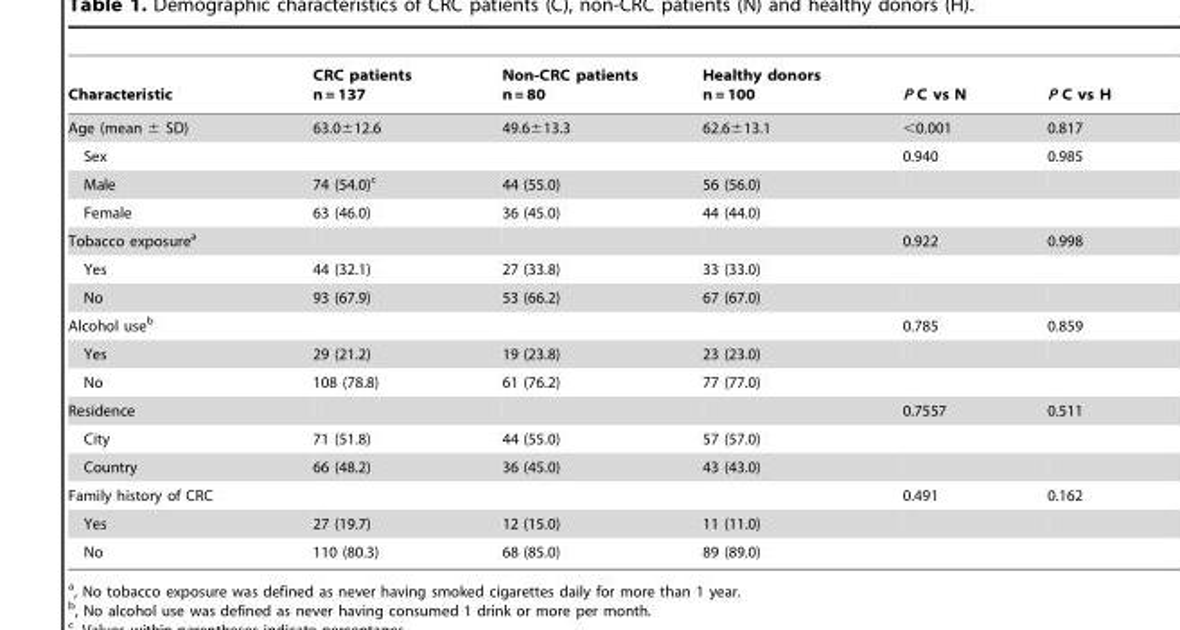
<table><thead><tr><td>Characteristic</td><td>CRC patients n = 137</td><td>Non-CRC patients n = 80</td><td>Healthy donors n = 100</td><td>P C vs N</td><td>P C vs H</td></tr></thead><tbody><tr><td>Age (mean ± SD)</td><td>63.0±12.6</td><td>49.6±13.3</td><td>62.6±13.1</td><td>&lt;0.001</td><td>0.817</td></tr><tr><td>Sex</td><td></td><td></td><td></td><td>0.940</td><td>0.985</td></tr><tr><td>Male</td><td>74 (54.0)<sup>c</sup></td><td>44 (55.0)</td><td>56 (56.0)</td><td></td><td></td></tr><tr><td>Female</td><td>63 (46.0)</td><td>36 (45.0)</td><td>44 (44.0)</td><td></td><td></td></tr><tr><td>Tobacco exposure<sup>a</sup></td><td></td><td></td><td></td><td>0.922</td><td>0.998</td></tr><tr><td>Yes</td><td>44 (32.1)</td><td>27 (33.8)</td><td>33 (33.0)</td><td></td><td></td></tr><tr><td>No</td><td>93 (67.9)</td><td>53 (66.2)</td><td>67 (67.0)</td><td></td><td></td></tr><tr><td>Alcohol use<sup>b</sup></td><td></td><td></td><td></td><td>0.785</td><td>0.859</td></tr><tr><td>Yes</td><td>29 (21.2)</td><td>19 (23.8)</td><td>23 (23.0)</td><td></td><td></td></tr><tr><td>No</td><td>108 (78.8)</td><td>61 (76.2)</td><td>77 (77.0)</td><td></td><td></td></tr><tr><td>Residence</td><td></td><td></td><td></td><td>0.7557</td><td>0.511</td></tr><tr><td>City</td><td>71 (51.8)</td><td>44 (55.0)</td><td>57 (57.0)</td><td></td><td></td></tr><tr><td>Country</td><td>66 (48.2)</td><td>36 (45.0)</td><td>43 (43.0)</td><td></td><td></td></tr><tr><td>Family history of CRC</td><td></td><td></td><td></td><td>0.491</td><td>0.162</td></tr><tr><td>Yes</td><td>27 (19.7)</td><td>12 (15.0)</td><td>11 (11.0)</td><td></td><td></td></tr><tr><td>No</td><td>110 (80.3)</td><td>68 (85.0)</td><td>89 (89.0)</td><td></td><td></td></tr></tbody></table>